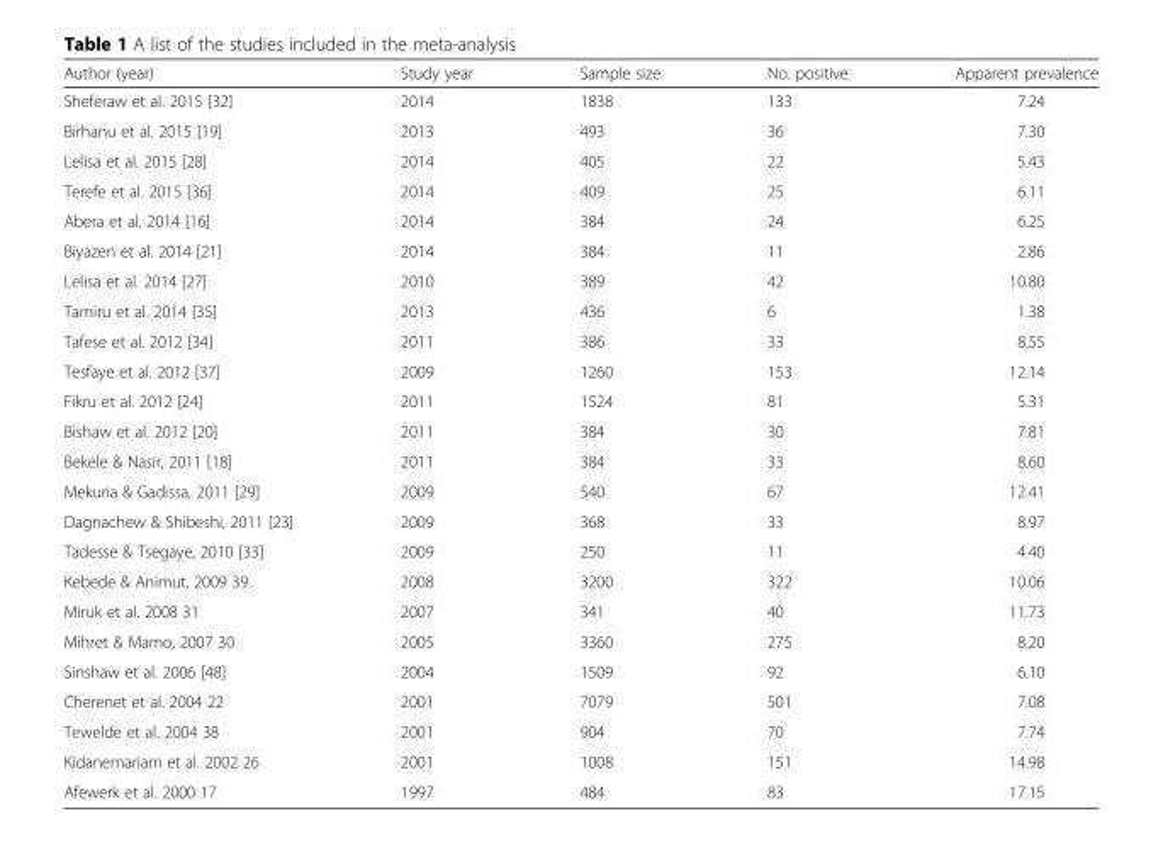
<table><thead><tr><td>Author (year)</td><td>Study year</td><td>Sample size</td><td>No. positive</td><td>Apparent prevalence</td></tr></thead><tbody><tr><td>Sheferaw et al. 2015 [32]</td><td>2014</td><td>1838</td><td>133</td><td>7.24</td></tr><tr><td>Birhanu et al. 2015 [19]</td><td>2013</td><td>493</td><td>36</td><td>7.30</td></tr><tr><td>Lelisa et al. 2015 [28]</td><td>2014</td><td>405</td><td>22</td><td>5.43</td></tr><tr><td>Terefe et al. 2015 [36]</td><td>2014</td><td>409</td><td>25</td><td>6.11</td></tr><tr><td>Abera et al. 2014 [16]</td><td>2014</td><td>384</td><td>24</td><td>6.25</td></tr><tr><td>Biyazen et al. 2014 [21]</td><td>2014</td><td>384</td><td>11</td><td>2.86</td></tr><tr><td>Lelisa et al. 2014 [27]</td><td>2010</td><td>389</td><td>42</td><td>10.80</td></tr><tr><td>Tamiru et al. 2014 [35]</td><td>2013</td><td>436</td><td>6</td><td>1.38</td></tr><tr><td>Tafese et al. 2012 [34]</td><td>2011</td><td>386</td><td>33</td><td>8.55</td></tr><tr><td>Tesfaye et al. 2012 [37]</td><td>2009</td><td>1260</td><td>153</td><td>12.14</td></tr><tr><td>Fikru et al. 2012 [24]</td><td>2011</td><td>1524</td><td>81</td><td>5.31</td></tr><tr><td>Bishaw et al. 2012 [20]</td><td>2011</td><td>384</td><td>30</td><td>7.81</td></tr><tr><td>Bekele &amp; Nasir, 2011 [18]</td><td>2011</td><td>384</td><td>33</td><td>8.60</td></tr><tr><td>Mekuria &amp; Gadissa, 2011 [29]</td><td>2009</td><td>540</td><td>67</td><td>12.41</td></tr><tr><td>Dagnachew &amp; Shibeshi, 2011 [23]</td><td>2009</td><td>368</td><td>33</td><td>8.97</td></tr><tr><td>Tadesse &amp; Tsegaye, 2010 [33]</td><td>2009</td><td>250</td><td>11</td><td>4.40</td></tr><tr><td>Kebede &amp; Animut, 2009 39</td><td>2008</td><td>3200</td><td>322</td><td>10.06</td></tr><tr><td>Miruk et al. 2008 31</td><td>2007</td><td>341</td><td>40</td><td>11.73</td></tr><tr><td>Mihret &amp; Mamo, 2007 30</td><td>2005</td><td>3360</td><td>275</td><td>8.20</td></tr><tr><td>Sinshaw et al. 2006 [48]</td><td>2004</td><td>1509</td><td>92</td><td>6.10</td></tr><tr><td>Cherenet et al. 2004 22</td><td>2001</td><td>7079</td><td>501</td><td>7.08</td></tr><tr><td>Tewelde et al. 2004 38</td><td>2001</td><td>904</td><td>70</td><td>7.74</td></tr><tr><td>Kidanemariam et al. 2002 26</td><td>2001</td><td>1008</td><td>151</td><td>14.98</td></tr><tr><td>Afewerk et al. 2000 17</td><td>1997</td><td>484</td><td>83</td><td>17.15</td></tr></tbody></table>